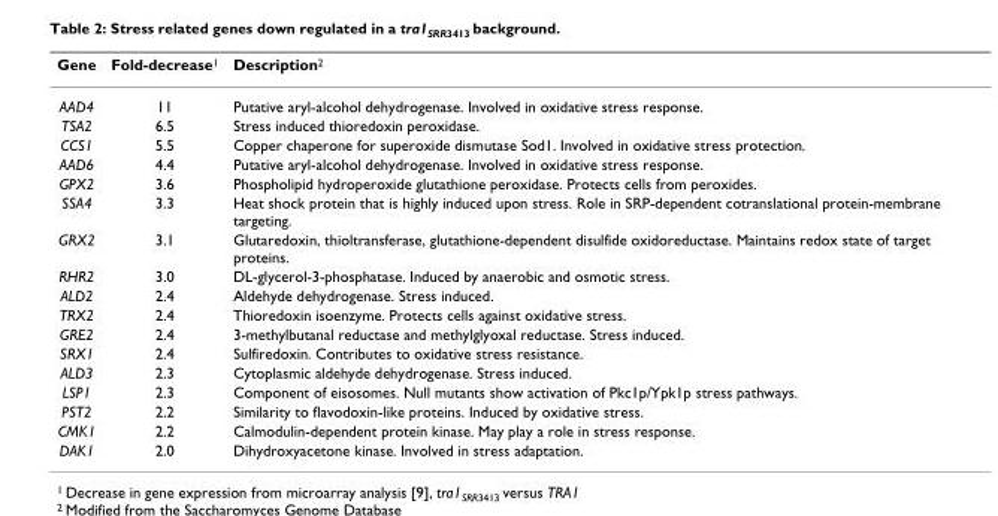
<table><thead><tr><td>Gene</td><td>Fold-decrease<sup>1</sup></td><td>Description<sup>2</sup></td></tr></thead><tbody><tr><td>AAD4</td><td>11</td><td>Putative aryl-alcohol dehydrogenase. Involved in oxidative stress response.</td></tr><tr><td>TSA2</td><td>6.5</td><td>Stress induced thioredoxin peroxidase.</td></tr><tr><td>CCS1</td><td>5.5</td><td>Copper chaperone for superoxide dismutase Sod1. Involved in oxidative stress protection.</td></tr><tr><td>AAD6</td><td>4.4</td><td>Putative aryl-alcohol dehydrogenase. Involved in oxidative stress response.</td></tr><tr><td>GPX2</td><td>3.6</td><td>Phospholipid hydroperoxide glutathione peroxidase. Protects cells from peroxides.</td></tr><tr><td>SSA4</td><td>3.3</td><td>Heat shock protein that is highly induced upon stress. Role in SRP-dependent cotranslational protein-membrane targeting.</td></tr><tr><td>GRX2</td><td>3.1</td><td>Glutaredoxin, thioltransferase, glutathione-dependent disulfide oxidoreductase. Maintains redox state of target proteins.</td></tr><tr><td>RHR2</td><td>3.0</td><td>DL-glycerol-3-phosphatase. Induced by anaerobic and osmotic stress.</td></tr><tr><td>ALD2</td><td>2.4</td><td>Aldehyde dehydrogenase. Stress induced.</td></tr><tr><td>TRX2</td><td>2.4</td><td>Thioredoxin isoenzyme. Protects cells against oxidative stress.</td></tr><tr><td>GRE2</td><td>2.4</td><td>3-methylbutanal reductase and methylglyoxal reductase. Stress induced.</td></tr><tr><td>SRX1</td><td>2.4</td><td>Sulfiredoxin. Contributes to oxidative stress resistance.</td></tr><tr><td>ALD3</td><td>2.3</td><td>Cytoplasmic aldehyde dehydrogenase. Stress induced.</td></tr><tr><td>LSP1</td><td>2.3</td><td>Component of eisosomes. Null mutants show activation of Pkc1p/Ypk1p stress pathways.</td></tr><tr><td>PST2</td><td>2.2</td><td>Similarity to flavodoxin-like proteins. Induced by oxidative stress.</td></tr><tr><td>CMK1</td><td>2.2</td><td>Calmodulin-dependent protein kinase. May play a role in stress response.</td></tr><tr><td>DAK1</td><td>2.0</td><td>Dihydroxyacetone kinase. Involved in stress adaptation.</td></tr></tbody></table>